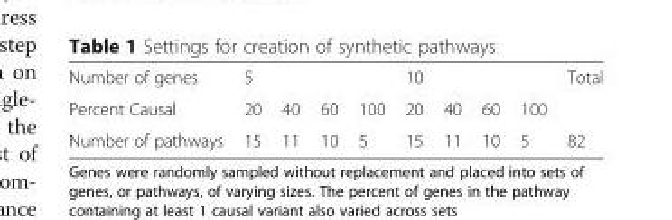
<table><tbody><tr><td>Number of genes</td><td colspan="4">5</td><td colspan="4">10</td><td rowspan="2">Total</td></tr><tr><td>Percent Causal</td><td>20</td><td>40</td><td>60</td><td>100</td><td>20</td><td>40</td><td>60</td><td>100</td></tr><tr><td>Number of pathways</td><td>15</td><td>11</td><td>10</td><td>5</td><td>15</td><td>11</td><td>10</td><td>5</td><td>82</td></tr></tbody></table>